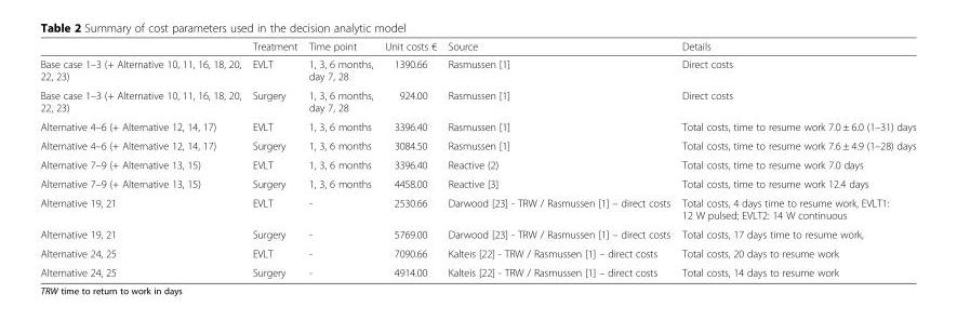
<table><thead><tr><td></td><td>Treatment</td><td>Time point</td><td>Unit costs €</td><td>Source</td><td>Details</td></tr></thead><tbody><tr><td>Base case 1–3 (+ Alternative 10, 11, 16, 18, 20, 22, 23)</td><td>EVLT</td><td>1, 3, 6 months, day 7, 28</td><td>1390.66</td><td>Rasmussen [1]</td><td>Direct costs</td></tr><tr><td>Base case 1–3 (+ Alternative 10, 11, 16, 18, 20, 22, 23)</td><td>Surgery</td><td>1, 3, 6 months, day 7, 28</td><td>924.00</td><td>Rasmussen [1]</td><td>Direct costs</td></tr><tr><td>Alternative 4–6 (+ Alternative 12, 14, 17)</td><td>EVLT</td><td>1, 3, 6 months</td><td>3396.40</td><td>Rasmussen [1]</td><td>Total costs, time to resume work 7.0 ± 6.0 (1–31) days</td></tr><tr><td>Alternative 4–6 (+ Alternative 12, 14, 17)</td><td>Surgery</td><td>1, 3, 6 months</td><td>3084.50</td><td>Rasmussen [1]</td><td>Total costs, time to resume work 7.6 ± 4.9 (1–28) days</td></tr><tr><td>Alternative 7–9 (+ Alternative 13, 15)</td><td>EVLT</td><td>1, 3, 6 months</td><td>3396.40</td><td>Reactive (2)</td><td>Total costs, time to resume work 7.0 days</td></tr><tr><td>Alternative 7–9 (+ Alternative 13, 15)</td><td>Surgery</td><td>1, 3, 6 months</td><td>4458.00</td><td>Reactive [3]</td><td>Total costs, time to resume work 12.4 days</td></tr><tr><td>Alternative 19, 21</td><td>EVLT</td><td>-</td><td>2530.66</td><td>Darwood [23] - TRW / Rasmussen [1] – direct costs</td><td>Total costs, 4 days time to resume work, EVLT1: 12 W pulsed; EVLT2: 14 W continuous</td></tr><tr><td>Alternative 19, 21</td><td>Surgery</td><td>-</td><td>5769.00</td><td>Darwood [23] - TRW / Rasmussen [1] – direct costs</td><td>Total costs, 17 days time to resume work,</td></tr><tr><td>Alternative 24, 25</td><td>EVLT</td><td>-</td><td>7090.66</td><td>Kalteis [22] - TRW / Rasmussen [1] – direct costs</td><td>Total costs, 20 days to resume work</td></tr><tr><td>Alternative 24, 25</td><td>Surgery</td><td>-</td><td>4914.00</td><td>Kalteis [22] - TRW / Rasmussen [1] – direct costs</td><td>Total costs, 14 days to resume work</td></tr></tbody></table>